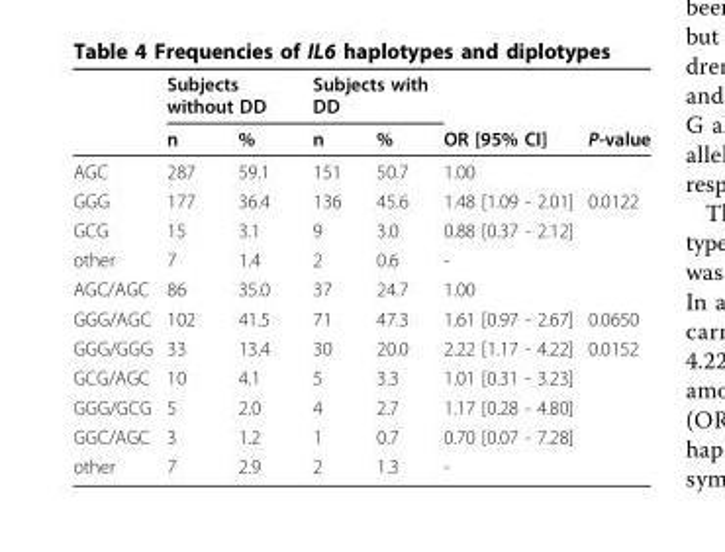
<table><thead><tr><td rowspan="2"></td><td colspan="2">Subjects without DD</td><td colspan="2">Subjects with DD</td><td rowspan="2">OR [95% CI]</td><td rowspan="2">P-value</td></tr><tr><td>n</td><td>%</td><td>n</td><td>%</td></tr></thead><tbody><tr><td>AGC</td><td>287</td><td>59.1</td><td>151</td><td>50.7</td><td>1.00</td><td></td></tr><tr><td>GGG</td><td>177</td><td>36.4</td><td>136</td><td>45.6</td><td>1.48 [1.09 - 2.01]</td><td>0.0122</td></tr><tr><td>GCG</td><td>15</td><td>3.1</td><td>9</td><td>3.0</td><td>0.88 [0.37 - 2.12]</td><td></td></tr><tr><td>other</td><td>7</td><td>1.4</td><td>2</td><td>0.6</td><td>-</td><td></td></tr><tr><td>AGC/AGC</td><td>86</td><td>35.0</td><td>37</td><td>24.7</td><td>1.00</td><td></td></tr><tr><td>GGG/AGC</td><td>102</td><td>41.5</td><td>71</td><td>47.3</td><td>1.61 [0.97 - 2.67]</td><td>0.0650</td></tr><tr><td>GGG/GGG</td><td>33</td><td>13.4</td><td>30</td><td>20.0</td><td>2.22 [1.17 - 4.22]</td><td>0.0152</td></tr><tr><td>GCG/AGC</td><td>10</td><td>4.1</td><td>5</td><td>3.3</td><td>1.01 [0.31 - 3.23]</td><td></td></tr><tr><td>GGG/GCG</td><td>5</td><td>2.0</td><td>4</td><td>2.7</td><td>1.17 [0.28 - 4.80]</td><td></td></tr><tr><td>GGC/AGC</td><td>3</td><td>1.2</td><td>1</td><td>0.7</td><td>0.70 [0.07 - 7.28]</td><td></td></tr><tr><td>other</td><td>7</td><td>2.9</td><td>2</td><td>1.3</td><td>-</td><td></td></tr></tbody></table>